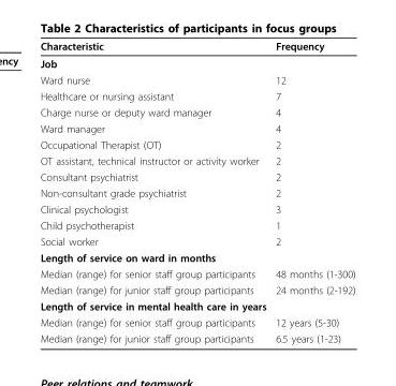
<table><thead><tr><td>Characteristic</td><td>Frequency</td></tr></thead><tbody><tr><td colspan="2">Job</td></tr><tr><td>Ward nurse</td><td>12</td></tr><tr><td>Healthcare or nursing assistant</td><td>7</td></tr><tr><td>Charge nurse or deputy ward manager</td><td>4</td></tr><tr><td>Ward manager</td><td>4</td></tr><tr><td>Occupational Therapist (OT)</td><td>2</td></tr><tr><td>OT assistant, technical instructor or activity worker</td><td>2</td></tr><tr><td>Consultant psychiatrist</td><td>2</td></tr><tr><td>Non-consultant grade psychiatrist</td><td>2</td></tr><tr><td>Clinical psychologist</td><td>3</td></tr><tr><td>Child psychotherapist</td><td>1</td></tr><tr><td>Social worker</td><td>2</td></tr><tr><td colspan="2">Length of service on ward in months</td></tr><tr><td>Median (range) for senior staff group participants</td><td>48 months (1-300)</td></tr><tr><td>Median (range) for junior staff group participants</td><td>24 months (2-192)</td></tr><tr><td colspan="2">Length of service in mental health care in years</td></tr><tr><td>Median (range) for senior staff group participants</td><td>12 years (5-30)</td></tr><tr><td>Median (range) for junior staff group participants</td><td>6.5 years (1-23)</td></tr></tbody></table>